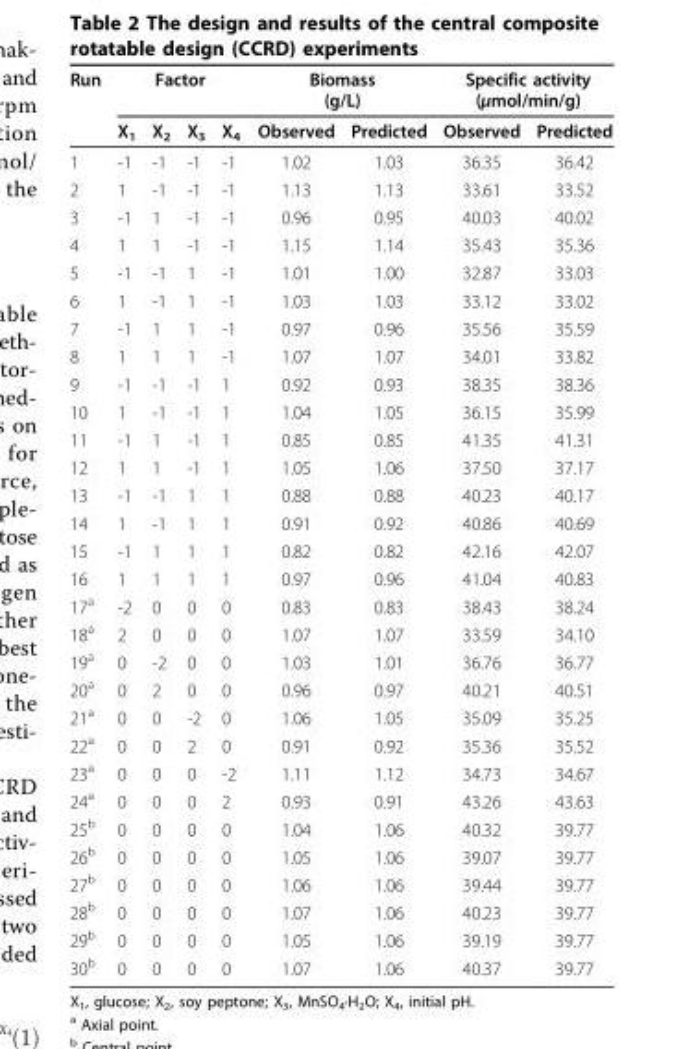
<table><tbody><tr><td rowspan="2">Run</td><td colspan="4">Factor</td><td colspan="2">Biomass (g/L)</td><td colspan="2">Specific activity (μmol/min/g)</td></tr><tr><td>X<sub>1</sub></td><td>X<sub>2</sub></td><td>X<sub>3</sub></td><td>X<sub>4</sub></td><td>Observed</td><td>Predicted</td><td>Observed</td><td>Predicted</td></tr><tr><td>1</td><td>-1</td><td>-1</td><td>-1</td><td>-1</td><td>1.02</td><td>1.03</td><td>36.35</td><td>36.42</td></tr><tr><td>2</td><td>1</td><td>-1</td><td>-1</td><td>-1</td><td>1.13</td><td>1.13</td><td>33.61</td><td>33.52</td></tr><tr><td>3</td><td>-1</td><td>1</td><td>-1</td><td>-1</td><td>0.96</td><td>0.95</td><td>40.03</td><td>40.02</td></tr><tr><td>4</td><td>1</td><td>1</td><td>-1</td><td>-1</td><td>1.15</td><td>1.14</td><td>35.43</td><td>35.36</td></tr><tr><td>5</td><td>-1</td><td>-1</td><td>1</td><td>-1</td><td>1.01</td><td>1.00</td><td>32.87</td><td>33.03</td></tr><tr><td>6</td><td>1</td><td>-1</td><td>1</td><td>-1</td><td>1.03</td><td>1.03</td><td>33.12</td><td>33.02</td></tr><tr><td>7</td><td>-1</td><td>1</td><td>1</td><td>-1</td><td>0.97</td><td>0.96</td><td>35.56</td><td>35.59</td></tr><tr><td>8</td><td>1</td><td>1</td><td>1</td><td>-1</td><td>1.07</td><td>1.07</td><td>34.01</td><td>33.82</td></tr><tr><td>9</td><td>-1</td><td>-1</td><td>-1</td><td>1</td><td>0.92</td><td>0.93</td><td>38.35</td><td>38.36</td></tr><tr><td>10</td><td>1</td><td>-1</td><td>-1</td><td>1</td><td>1.04</td><td>1.05</td><td>36.15</td><td>35.99</td></tr><tr><td>11</td><td>-1</td><td>1</td><td>-1</td><td>1</td><td>0.85</td><td>0.85</td><td>41.35</td><td>41.31</td></tr><tr><td>12</td><td>1</td><td>1</td><td>-1</td><td>1</td><td>1.05</td><td>1.06</td><td>37.50</td><td>37.17</td></tr><tr><td>13</td><td>-1</td><td>-1</td><td>1</td><td>1</td><td>0.88</td><td>0.88</td><td>40.23</td><td>40.17</td></tr><tr><td>14</td><td>1</td><td>-1</td><td>1</td><td>1</td><td>0.91</td><td>0.92</td><td>40.86</td><td>40.69</td></tr><tr><td>15</td><td>-1</td><td>1</td><td>1</td><td>1</td><td>0.82</td><td>0.82</td><td>42.16</td><td>42.07</td></tr><tr><td>16</td><td>1</td><td>1</td><td>1</td><td>1</td><td>0.97</td><td>0.96</td><td>41.04</td><td>40.83</td></tr><tr><td>17<sup>a</sup></td><td>-2</td><td>0</td><td>0</td><td>0</td><td>0.83</td><td>0.83</td><td>38.43</td><td>38.24</td></tr><tr><td>18<sup>a</sup></td><td>2</td><td>0</td><td>0</td><td>0</td><td>1.07</td><td>1.07</td><td>33.59</td><td>34.10</td></tr><tr><td>19<sup>a</sup></td><td>0</td><td>-2</td><td>0</td><td>0</td><td>1.03</td><td>1.01</td><td>36.76</td><td>36.77</td></tr><tr><td>20<sup>a</sup></td><td>0</td><td>2</td><td>0</td><td>0</td><td>0.96</td><td>0.97</td><td>40.21</td><td>40.51</td></tr><tr><td>21<sup>a</sup></td><td>0</td><td>0</td><td>-2</td><td>0</td><td>1.06</td><td>1.05</td><td>35.09</td><td>35.25</td></tr><tr><td>22<sup>a</sup></td><td>0</td><td>0</td><td>2</td><td>0</td><td>0.91</td><td>0.92</td><td>35.36</td><td>35.52</td></tr><tr><td>23<sup>a</sup></td><td>0</td><td>0</td><td>0</td><td>-2</td><td>1.11</td><td>1.12</td><td>34.73</td><td>34.67</td></tr><tr><td>24<sup>a</sup></td><td>0</td><td>0</td><td>0</td><td>2</td><td>0.93</td><td>0.91</td><td>43.26</td><td>43.63</td></tr><tr><td>25<sup>b</sup></td><td>0</td><td>0</td><td>0</td><td>0</td><td>1.04</td><td>1.06</td><td>40.32</td><td>39.77</td></tr><tr><td>26<sup>b</sup></td><td>0</td><td>0</td><td>0</td><td>0</td><td>1.05</td><td>1.06</td><td>39.07</td><td>39.77</td></tr><tr><td>27<sup>b</sup></td><td>0</td><td>0</td><td>0</td><td>0</td><td>1.06</td><td>1.06</td><td>39.44</td><td>39.77</td></tr><tr><td>28<sup>b</sup></td><td>0</td><td>0</td><td>0</td><td>0</td><td>1.07</td><td>1.06</td><td>40.23</td><td>39.77</td></tr><tr><td>29<sup>b</sup></td><td>0</td><td>0</td><td>0</td><td>0</td><td>1.05</td><td>1.06</td><td>39.19</td><td>39.77</td></tr><tr><td>30<sup>b</sup></td><td>0</td><td>0</td><td>0</td><td>0</td><td>1.07</td><td>1.06</td><td>40.37</td><td>39.77</td></tr></tbody></table>